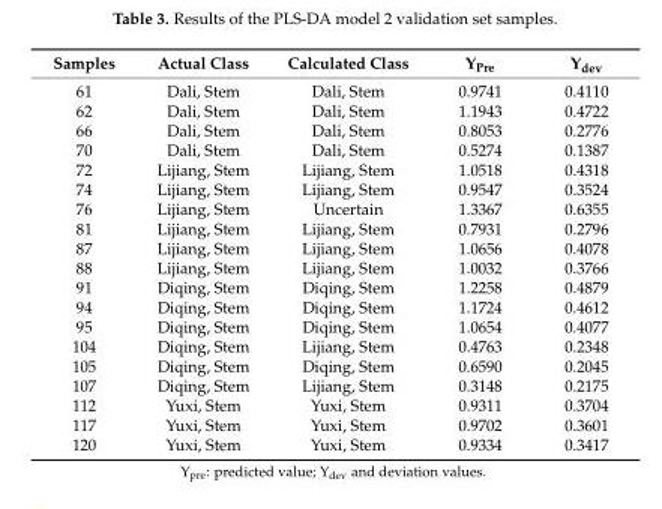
<table><thead><tr><td>Samples</td><td>Actual Class</td><td>Calculated Class</td><td>Y<sub>Pre</sub></td><td>Y<sub>dev</sub></td></tr></thead><tbody><tr><td>61</td><td>Dali, Stem</td><td>Dali, Stem</td><td>0.9741</td><td>0.4110</td></tr><tr><td>62</td><td>Dali, Stem</td><td>Dali, Stem</td><td>1.1943</td><td>0.4722</td></tr><tr><td>66</td><td>Dali, Stem</td><td>Dali, Stem</td><td>0.8053</td><td>0.2776</td></tr><tr><td>70</td><td>Dali, Stem</td><td>Dali, Stem</td><td>0.5274</td><td>0.1387</td></tr><tr><td>72</td><td>Lijiang, Stem</td><td>Lijiang, Stem</td><td>1.0518</td><td>0.4318</td></tr><tr><td>74</td><td>Lijiang, Stem</td><td>Lijiang, Stem</td><td>0.9547</td><td>0.3524</td></tr><tr><td>76</td><td>Lijiang, Stem</td><td>Uncertain</td><td>1.3367</td><td>0.6355</td></tr><tr><td>81</td><td>Lijiang, Stem</td><td>Lijiang, Stem</td><td>0.7931</td><td>0.2796</td></tr><tr><td>87</td><td>Lijiang, Stem</td><td>Lijiang, Stem</td><td>1.0656</td><td>0.4078</td></tr><tr><td>88</td><td>Lijiang, Stem</td><td>Lijiang, Stem</td><td>1.0032</td><td>0.3766</td></tr><tr><td>91</td><td>Diqing, Stem</td><td>Diqing, Stem</td><td>1.2258</td><td>0.4879</td></tr><tr><td>94</td><td>Diqing, Stem</td><td>Diqing, Stem</td><td>1.1724</td><td>0.4612</td></tr><tr><td>95</td><td>Diqing, Stem</td><td>Diqing, Stem</td><td>1.0654</td><td>0.4077</td></tr><tr><td>104</td><td>Diqing, Stem</td><td>Lijiang, Stem</td><td>0.4763</td><td>0.2348</td></tr><tr><td>105</td><td>Diqing, Stem</td><td>Diqing, Stem</td><td>0.6590</td><td>0.2045</td></tr><tr><td>107</td><td>Diqing, Stem</td><td>Lijiang, Stem</td><td>0.3148</td><td>0.2175</td></tr><tr><td>112</td><td>Yuxi, Stem</td><td>Yuxi, Stem</td><td>0.9311</td><td>0.3704</td></tr><tr><td>117</td><td>Yuxi, Stem</td><td>Yuxi, Stem</td><td>0.9702</td><td>0.3601</td></tr><tr><td>120</td><td>Yuxi, Stem</td><td>Yuxi, Stem</td><td>0.9334</td><td>0.3417</td></tr></tbody></table>